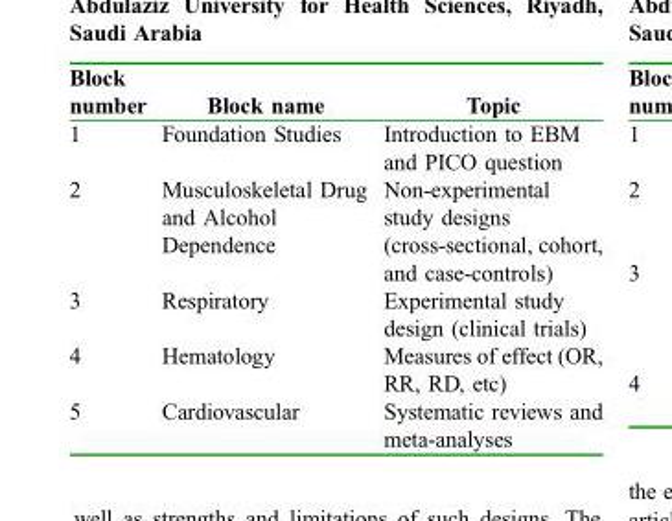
<table><thead><tr><td>Block number</td><td>Block name</td><td>Topic</td></tr></thead><tbody><tr><td>1</td><td>Foundation Studies</td><td>Introduction to EBM and PICO question</td></tr><tr><td>2</td><td>Musculoskeletal Drug and Alcohol Dependence</td><td>Non-experimental study designs (cross-sectional, cohort, and case-controls)</td></tr><tr><td>3</td><td>Respiratory</td><td>Experimental study design (clinical trials)</td></tr><tr><td>4</td><td>Hematology</td><td>Measures of effect (OR, RR, RD, etc)</td></tr><tr><td>5</td><td>Cardiovascular</td><td>Systematic reviews and meta-analyses</td></tr></tbody></table>